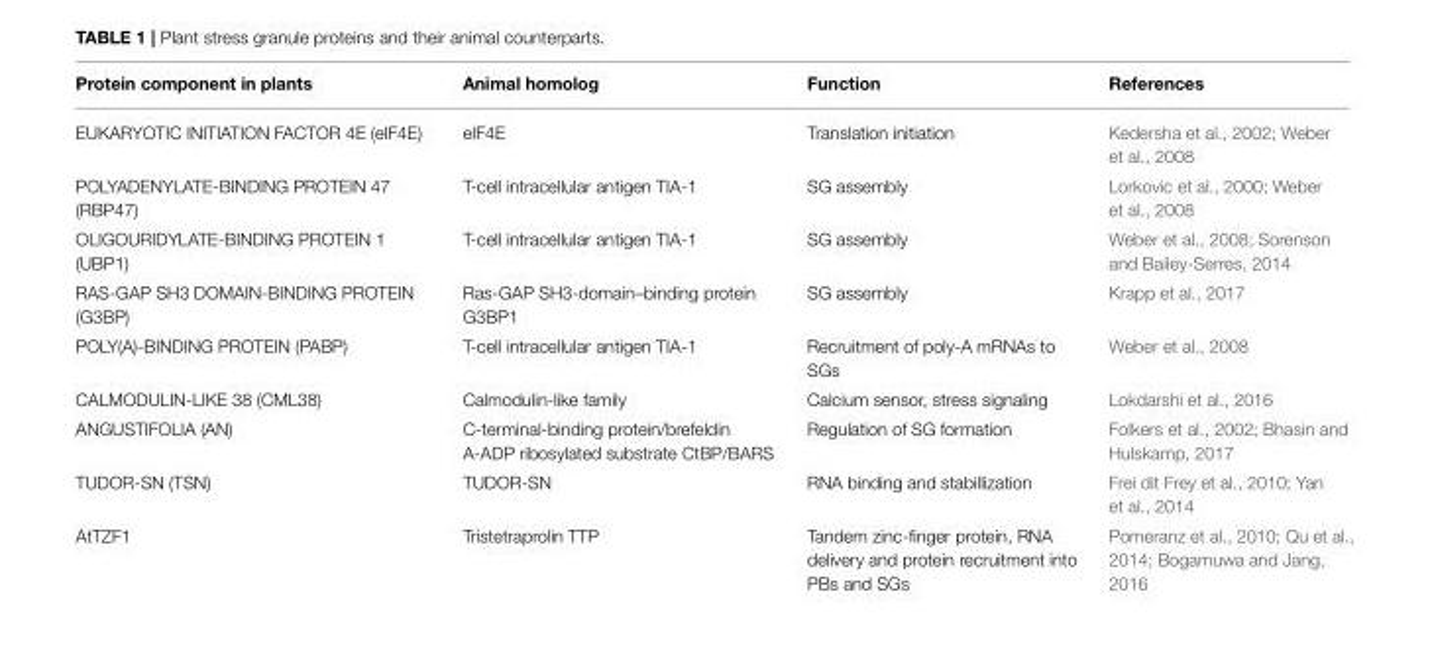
<table><thead><tr><td>Protein component in plants</td><td>Animal homolog</td><td>Function</td><td>References</td></tr></thead><tbody><tr><td>EUKARYOTIC INITIATION FACTOR 4E (eIF4E)</td><td>eIF4E</td><td>Translation initiation</td><td>Kedersha et al., 2002; Weber et al., 2008</td></tr><tr><td>POLYADENYLATE-BINDING PROTEIN 47 (RBP47)</td><td>T-cell intracellular antigen TIA-1</td><td>SG assembly</td><td>Lorkovic et al., 2000; Weber et al., 2008</td></tr><tr><td>OLIGOURIDYLATE-BINDING PROTEIN 1 (UBP1)</td><td>T-cell intracellular antigen TIA-1</td><td>SG assembly</td><td>Weber et al., 2008; Sorenson and Bailey-Serres, 2014</td></tr><tr><td>RAS-GAP SH3 DOMAIN-BINDING PROTEIN (G3BP)</td><td>Ras-GAP SH3-domain–binding protein G3BP1</td><td>SG assembly</td><td>Krapp et al., 2017</td></tr><tr><td>POLY(A)-BINDING PROTEIN (PABP)</td><td>T-cell intracellular antigen TIA-1</td><td>Recruitment of poly-A mRNAs to SGs</td><td>Weber et al., 2008</td></tr><tr><td>CALMODULIN-LIKE 38 (CML38)</td><td>Calmodulin-like family</td><td>Calcium sensor, stress signaling</td><td>Lokdarshi et al., 2016</td></tr><tr><td>ANGUSTIFOLIA (AN)</td><td>C-terminal-binding protein/brefeldin A-ADP ribosylated substrate CtBP/BARS</td><td>Regulation of SG formation</td><td>Folkers et al., 2002; Bhasin and Hulskamp, 2017</td></tr><tr><td>TUDOR-SN (TSN)</td><td>TUDOR-SN</td><td>RNA binding and stabillization</td><td>Frei dit Frey et al., 2010; Yan et al., 2014</td></tr><tr><td>AtTZF1</td><td>Tristetraprolin TTP</td><td>Tandem zinc-finger protein, RNA delivery and protein recruitment into PBs and SGs</td><td>Pomeranz et al., 2010; Qu et al., 2014; Bogamuwa and Jang, 2016</td></tr></tbody></table>